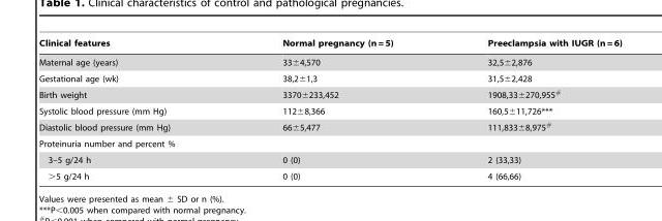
<table><thead><tr><td>Clinical features</td><td>Normal pregnancy (n = 5)</td><td>Preeclampsia with IUGR (n = 6)</td></tr></thead><tbody><tr><td>Maternal age (years)</td><td>33±4,570</td><td>32,5±2,876</td></tr><tr><td>Gestational age (wk)</td><td>38,2±1,3</td><td>31,5±2,428</td></tr><tr><td>Birth weight</td><td>3370±233,452</td><td>1908,33±270,955#</td></tr><tr><td>Systolic blood pressure (mm Hg)</td><td>112±8,366</td><td>160,5±11,726***</td></tr><tr><td>Diastolic blood pressure (mm Hg)</td><td>66±5,477</td><td>111,833±8,975#</td></tr><tr><td colspan="3">Proteinuria number and percent %</td></tr><tr><td>3–5 g/24 h</td><td>0 (0)</td><td>2 (33,33)</td></tr><tr><td>&gt;5 g/24 h</td><td>0 (0)</td><td>4 (66,66)</td></tr></tbody></table>